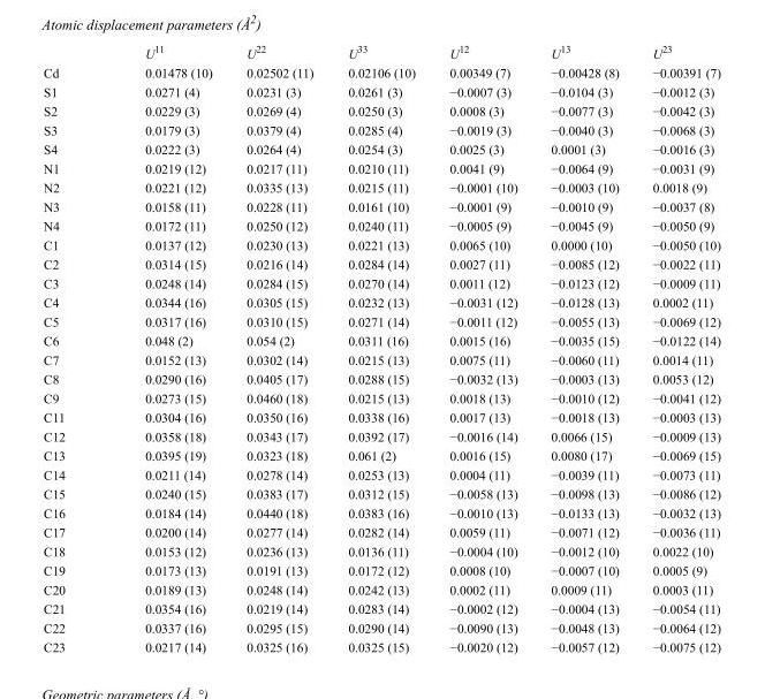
<table><thead><tr><td></td><td>U<sup>11</sup></td><td>U<sup>22</sup></td><td>U<sup>33</sup></td><td>U<sup>12</sup></td><td>U<sup>13</sup></td><td>U<sup>23</sup></td></tr></thead><tbody><tr><td>Cd</td><td>0.01478 (10)</td><td>0.02502 (11)</td><td>0.02106 (10)</td><td>0.00349 (7)</td><td>−0.00428 (8)</td><td>−0.00391 (7)</td></tr><tr><td>S1</td><td>0.0271 (4)</td><td>0.0231 (3)</td><td>0.0261 (3)</td><td>−0.0007 (3)</td><td>−0.0104 (3)</td><td>−0.0012 (3)</td></tr><tr><td>S2</td><td>0.0229 (3)</td><td>0.0269 (4)</td><td>0.0250 (3)</td><td>0.0008 (3)</td><td>−0.0077 (3)</td><td>−0.0042 (3)</td></tr><tr><td>S3</td><td>0.0179 (3)</td><td>0.0379 (4)</td><td>0.0285 (4)</td><td>−0.0019 (3)</td><td>−0.0040 (3)</td><td>−0.0068 (3)</td></tr><tr><td>S4</td><td>0.0222 (3)</td><td>0.0264 (4)</td><td>0.0254 (3)</td><td>0.0025 (3)</td><td>0.0001 (3)</td><td>−0.0016 (3)</td></tr><tr><td>N1</td><td>0.0219 (12)</td><td>0.0217 (11)</td><td>0.0210 (11)</td><td>0.0041 (9)</td><td>−0.0064 (9)</td><td>−0.0031 (9)</td></tr><tr><td>N2</td><td>0.0221 (12)</td><td>0.0335 (13)</td><td>0.0215 (11)</td><td>−0.0001 (10)</td><td>−0.0003 (10)</td><td>0.0018 (9)</td></tr><tr><td>N3</td><td>0.0158 (11)</td><td>0.0228 (11)</td><td>0.0161 (10)</td><td>−0.0001 (9)</td><td>−0.0010 (9)</td><td>−0.0037 (8)</td></tr><tr><td>N4</td><td>0.0172 (11)</td><td>0.0250 (12)</td><td>0.0240 (11)</td><td>−0.0005 (9)</td><td>−0.0045 (9)</td><td>−0.0050 (9)</td></tr><tr><td>C1</td><td>0.0137 (12)</td><td>0.0230 (13)</td><td>0.0221 (13)</td><td>0.0065 (10)</td><td>0.0000 (10)</td><td>−0.0050 (10)</td></tr><tr><td>C2</td><td>0.0314 (15)</td><td>0.0216 (14)</td><td>0.0284 (14)</td><td>0.0027 (11)</td><td>−0.0085 (12)</td><td>−0.0022 (11)</td></tr><tr><td>C3</td><td>0.0248 (14)</td><td>0.0284 (15)</td><td>0.0270 (14)</td><td>0.0011 (12)</td><td>−0.0123 (12)</td><td>−0.0009 (11)</td></tr><tr><td>C4</td><td>0.0344 (16)</td><td>0.0305 (15)</td><td>0.0232 (13)</td><td>−0.0031 (12)</td><td>−0.0128 (13)</td><td>0.0002 (11)</td></tr><tr><td>C5</td><td>0.0317 (16)</td><td>0.0310 (15)</td><td>0.0271 (14)</td><td>−0.0011 (12)</td><td>−0.0055 (13)</td><td>−0.0069 (12)</td></tr><tr><td>C6</td><td>0.048 (2)</td><td>0.054 (2)</td><td>0.0311 (16)</td><td>0.0015 (16)</td><td>−0.0035 (15)</td><td>−0.0122 (14)</td></tr><tr><td>C7</td><td>0.0152 (13)</td><td>0.0302 (14)</td><td>0.0215 (13)</td><td>0.0075 (11)</td><td>−0.0060 (11)</td><td>0.0014 (11)</td></tr><tr><td>C8</td><td>0.0290 (16)</td><td>0.0405 (17)</td><td>0.0288 (15)</td><td>−0.0032 (13)</td><td>−0.0003 (13)</td><td>0.0053 (12)</td></tr><tr><td>C9</td><td>0.0273 (15)</td><td>0.0460 (18)</td><td>0.0215 (13)</td><td>0.0018 (13)</td><td>−0.0010 (12)</td><td>−0.0041 (12)</td></tr><tr><td>C11</td><td>0.0304 (16)</td><td>0.0350 (16)</td><td>0.0338 (16)</td><td>0.0017 (13)</td><td>−0.0018 (13)</td><td>−0.0003 (13)</td></tr><tr><td>C12</td><td>0.0358 (18)</td><td>0.0343 (17)</td><td>0.0392 (17)</td><td>−0.0016 (14)</td><td>0.0066 (15)</td><td>−0.0009 (13)</td></tr><tr><td>C13</td><td>0.0395 (19)</td><td>0.0323 (18)</td><td>0.061 (2)</td><td>0.0016 (15)</td><td>0.0080 (17)</td><td>−0.0069 (15)</td></tr><tr><td>C14</td><td>0.0211 (14)</td><td>0.0278 (14)</td><td>0.0253 (13)</td><td>0.0004 (11)</td><td>−0.0039 (11)</td><td>−0.0073 (11)</td></tr><tr><td>C15</td><td>0.0240 (15)</td><td>0.0383 (17)</td><td>0.0312 (15)</td><td>−0.0058 (13)</td><td>−0.0098 (13)</td><td>−0.0086 (12)</td></tr><tr><td>C16</td><td>0.0184 (14)</td><td>0.0440 (18)</td><td>0.0383 (16)</td><td>−0.0010 (13)</td><td>−0.0133 (13)</td><td>−0.0032 (13)</td></tr><tr><td>C17</td><td>0.0200 (14)</td><td>0.0277 (14)</td><td>0.0282 (14)</td><td>0.0059 (11)</td><td>−0.0071 (12)</td><td>−0.0036 (11)</td></tr><tr><td>C18</td><td>0.0153 (12)</td><td>0.0236 (13)</td><td>0.0136 (11)</td><td>−0.0004 (10)</td><td>−0.0012 (10)</td><td>0.0022 (10)</td></tr><tr><td>C19</td><td>0.0173 (13)</td><td>0.0191 (13)</td><td>0.0172 (12)</td><td>0.0008 (10)</td><td>−0.0007 (10)</td><td>0.0005 (9)</td></tr><tr><td>C20</td><td>0.0189 (13)</td><td>0.0248 (14)</td><td>0.0242 (13)</td><td>0.0002 (11)</td><td>0.0009 (11)</td><td>0.0003 (11)</td></tr><tr><td>C21</td><td>0.0354 (16)</td><td>0.0219 (14)</td><td>0.0283 (14)</td><td>−0.0002 (12)</td><td>−0.0004 (13)</td><td>−0.0054 (11)</td></tr><tr><td>C22</td><td>0.0337 (16)</td><td>0.0295 (15)</td><td>0.0290 (14)</td><td>−0.0090 (13)</td><td>−0.0048 (13)</td><td>−0.0064 (12)</td></tr><tr><td>C23</td><td>0.0217 (14)</td><td>0.0325 (16)</td><td>0.0325 (15)</td><td>−0.0020 (12)</td><td>−0.0057 (12)</td><td>−0.0075 (12)</td></tr></tbody></table>